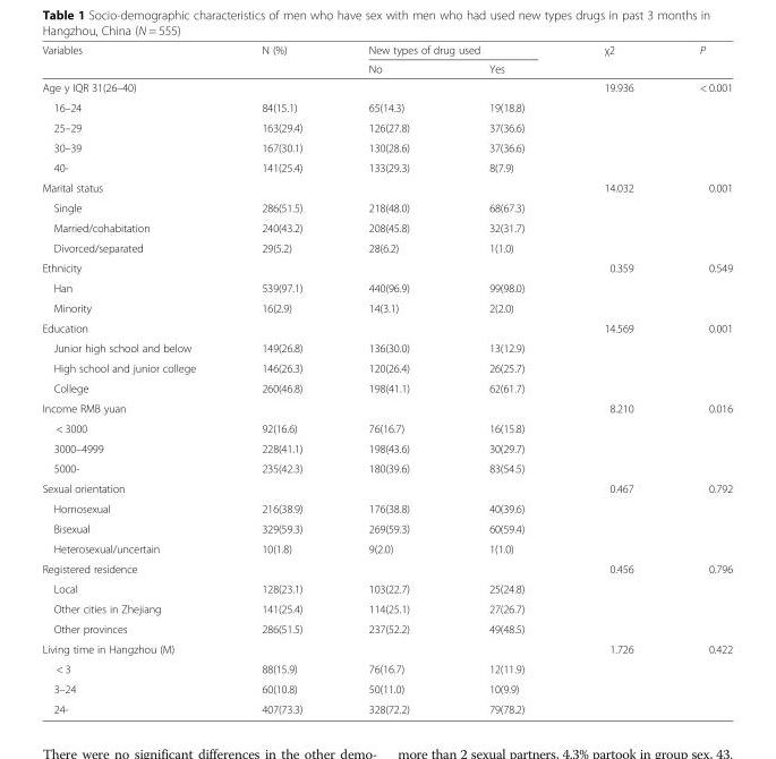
<table><thead><tr><td rowspan="2">Variables</td><td rowspan="2">N (%)</td><td colspan="2">New types of drug used</td><td rowspan="2">χ2</td><td rowspan="2">P</td></tr><tr><td>No</td><td>Yes</td></tr></thead><tbody><tr><td>Age y IQR 31(26–40)</td><td></td><td></td><td></td><td>19.936</td><td>&lt; 0.001</td></tr><tr><td>16–24</td><td>84(15.1)</td><td>65(14.3)</td><td>19(18.8)</td><td></td><td></td></tr><tr><td>25–29</td><td>163(29.4)</td><td>126(27.8)</td><td>37(36.6)</td><td></td><td></td></tr><tr><td>30–39</td><td>167(30.1)</td><td>130(28.6)</td><td>37(36.6)</td><td></td><td></td></tr><tr><td>40-</td><td>141(25.4)</td><td>133(29.3)</td><td>8(7.9)</td><td></td><td></td></tr><tr><td>Marital status</td><td></td><td></td><td></td><td>14.032</td><td>0.001</td></tr><tr><td>Single</td><td>286(51.5)</td><td>218(48.0)</td><td>68(67.3)</td><td></td><td></td></tr><tr><td>Married/cohabitation</td><td>240(43.2)</td><td>208(45.8)</td><td>32(31.7)</td><td></td><td></td></tr><tr><td>Divorced/separated</td><td>29(5.2)</td><td>28(6.2)</td><td>1(1.0)</td><td></td><td></td></tr><tr><td>Ethnicity</td><td></td><td></td><td></td><td>0.359</td><td>0.549</td></tr><tr><td>Han</td><td>539(97.1)</td><td>440(96.9)</td><td>99(98.0)</td><td></td><td></td></tr><tr><td>Minority</td><td>16(2.9)</td><td>14(3.1)</td><td>2(2.0)</td><td></td><td></td></tr><tr><td>Education</td><td></td><td></td><td></td><td>14.569</td><td>0.001</td></tr><tr><td>Junior high school and below</td><td>149(26.8)</td><td>136(30.0)</td><td>13(12.9)</td><td></td><td></td></tr><tr><td>High school and junior college</td><td>146(26.3)</td><td>120(26.4)</td><td>26(25.7)</td><td></td><td></td></tr><tr><td>College</td><td>260(46.8)</td><td>198(41.1)</td><td>62(61.7)</td><td></td><td></td></tr><tr><td>Income RMB yuan</td><td></td><td></td><td></td><td>8.210</td><td>0.016</td></tr><tr><td>&lt; 3000</td><td>92(16.6)</td><td>76(16.7)</td><td>16(15.8)</td><td></td><td></td></tr><tr><td>3000–4999</td><td>228(41.1)</td><td>198(43.6)</td><td>30(29.7)</td><td></td><td></td></tr><tr><td>5000-</td><td>235(42.3)</td><td>180(39.6)</td><td>83(54.5)</td><td></td><td></td></tr><tr><td>Sexual orientation</td><td></td><td></td><td></td><td>0.467</td><td>0.792</td></tr><tr><td>Homosexual</td><td>216(38.9)</td><td>176(38.8)</td><td>40(39.6)</td><td></td><td></td></tr><tr><td>Bisexual</td><td>329(59.3)</td><td>269(59.3)</td><td>60(59.4)</td><td></td><td></td></tr><tr><td>Heterosexual/uncertain</td><td>10(1.8)</td><td>9(2.0)</td><td>1(1.0)</td><td></td><td></td></tr><tr><td>Registered residence</td><td></td><td></td><td></td><td>0.456</td><td>0.796</td></tr><tr><td>Local</td><td>128(23.1)</td><td>103(22.7)</td><td>25(24.8)</td><td></td><td></td></tr><tr><td>Other cities in Zhejiang</td><td>141(25.4)</td><td>114(25.1)</td><td>27(26.7)</td><td></td><td></td></tr><tr><td>Other provinces</td><td>286(51.5)</td><td>237(52.2)</td><td>49(48.5)</td><td></td><td></td></tr><tr><td>Living time in Hangzhou (M)</td><td></td><td></td><td></td><td>1.726</td><td>0.422</td></tr><tr><td>&lt; 3</td><td>88(15.9)</td><td>76(16.7)</td><td>12(11.9)</td><td></td><td></td></tr><tr><td>3–24</td><td>60(10.8)</td><td>50(11.0)</td><td>10(9.9)</td><td></td><td></td></tr><tr><td>24-</td><td>407(73.3)</td><td>328(72.2)</td><td>79(78.2)</td><td></td><td></td></tr></tbody></table>